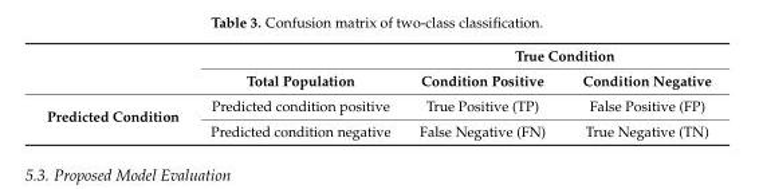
<table><thead><tr><td rowspan="2"></td><td rowspan="2">Total Population</td><td colspan="2">True Condition</td></tr><tr><td>Condition Positive</td><td>Condition Negative</td></tr></thead><tbody><tr><td rowspan="2">Predicted Condition</td><td>Predicted condition positive</td><td>True Positive (TP)</td><td>False Positive (FP)</td></tr><tr><td>Predicted condition negative</td><td>False Negative (FN)</td><td>True Negative (TN)</td></tr></tbody></table>